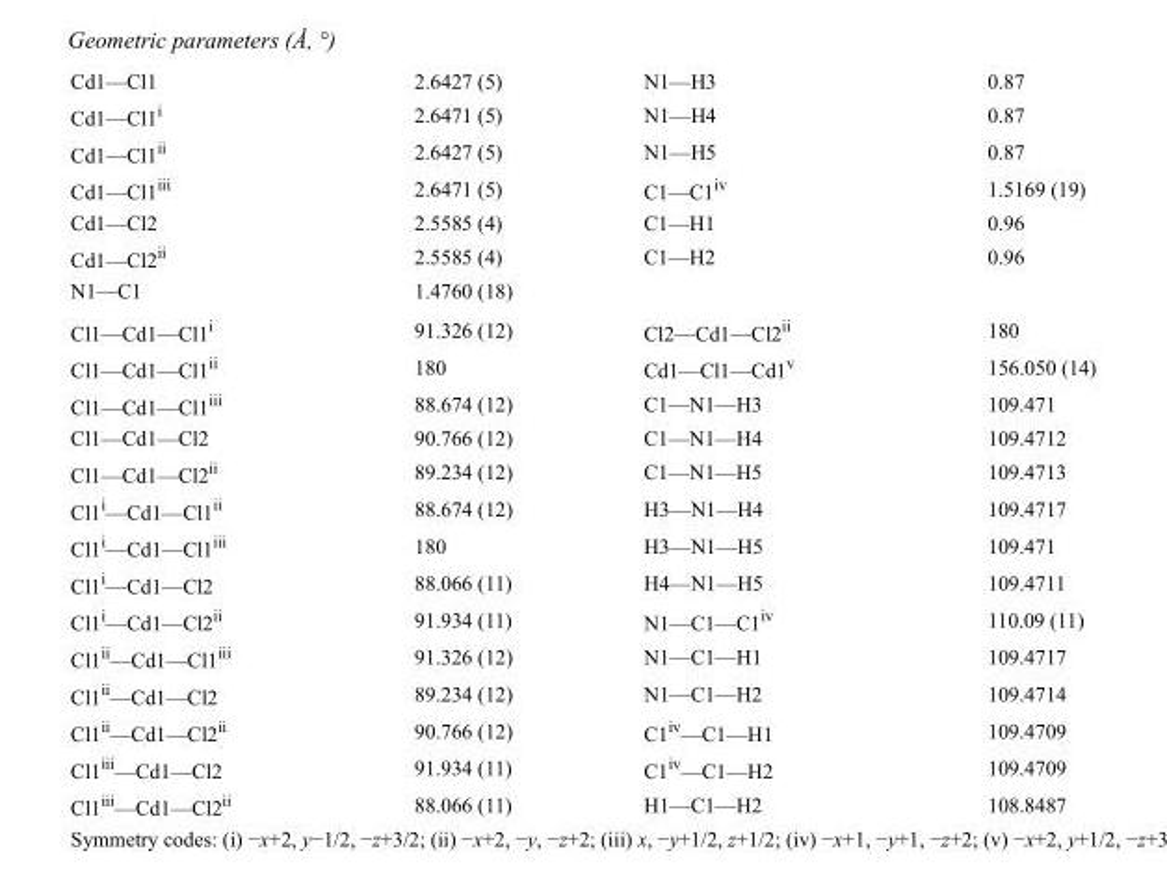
<table><tbody><tr><td>Cd1—Cl1</td><td>2.6427 (5)</td><td>N1—H3</td><td>0.87</td></tr><tr><td>Cd1—Cl1<sup>i</sup></td><td>2.6471 (5)</td><td>N1—H4</td><td>0.87</td></tr><tr><td>Cd1—Cl1<sup>ii</sup></td><td>2.6427 (5)</td><td>N1—H5</td><td>0.87</td></tr><tr><td>Cd1—Cl1<sup>iii</sup></td><td>2.6471 (5)</td><td>C1—C1<sup>iv</sup></td><td>1.5169 (19)</td></tr><tr><td>Cd1—Cl2</td><td>2.5585 (4)</td><td>C1—H1</td><td>0.96</td></tr><tr><td>Cd1—Cl2<sup>ii</sup></td><td>2.5585 (4)</td><td>C1—H2</td><td>0.96</td></tr><tr><td>N1—C1</td><td>1.4760 (18)</td><td></td><td></td></tr><tr><td>Cl1—Cd1—Cl1<sup>i</sup></td><td>91.326 (12)</td><td>Cl2—Cd1—Cl2<sup>ii</sup></td><td>180</td></tr><tr><td>Cl1—Cd1—Cl1<sup>ii</sup></td><td>180</td><td>Cd1—Cl1—Cd1<sup>v</sup></td><td>156.050 (14)</td></tr><tr><td>Cl1—Cd1—Cl1<sup>iii</sup></td><td>88.674 (12)</td><td>C1—N1—H3</td><td>109.471</td></tr><tr><td>Cl1—Cd1—Cl2</td><td>90.766 (12)</td><td>C1—N1—H4</td><td>109.4712</td></tr><tr><td>Cl1—Cd1—Cl2<sup>ii</sup></td><td>89.234 (12)</td><td>C1—N1—H5</td><td>109.4713</td></tr><tr><td>Cl1<sup>i</sup>—Cd1—Cl1<sup>ii</sup></td><td>88.674 (12)</td><td>H3—N1—H4</td><td>109.4717</td></tr><tr><td>Cl1<sup>i</sup>—Cd1—Cl1<sup>iii</sup></td><td>180</td><td>H3—N1—H5</td><td>109.471</td></tr><tr><td>Cl1<sup>i</sup>—Cd1—Cl2</td><td>88.066 (11)</td><td>H4—N1—H5</td><td>109.4711</td></tr><tr><td>Cl1<sup>i</sup>—Cd1—Cl2<sup>ii</sup></td><td>91.934 (11)</td><td>N1—C1—C1<sup>iv</sup></td><td>110.09 (11)</td></tr><tr><td>Cl1<sup>ii</sup>—Cd1—Cl1<sup>iii</sup></td><td>91.326 (12)</td><td>N1—C1—H1</td><td>109.4717</td></tr><tr><td>Cl1<sup>ii</sup>—Cd1—Cl2</td><td>89.234 (12)</td><td>N1—C1—H2</td><td>109.4714</td></tr><tr><td>Cl1<sup>ii</sup>—Cd1—Cl2<sup>ii</sup></td><td>90.766 (12)</td><td>C1<sup>iv</sup>—C1—H1</td><td>109.4709</td></tr><tr><td>Cl1<sup>iii</sup>—Cd1—Cl2</td><td>91.934 (11)</td><td>C1<sup>iv</sup>—C1—H2</td><td>109.4709</td></tr><tr><td>Cl1<sup>iii</sup>—Cd1—Cl2<sup>ii</sup></td><td>88.066 (11)</td><td>H1—C1—H2</td><td>108.8487</td></tr></tbody></table>